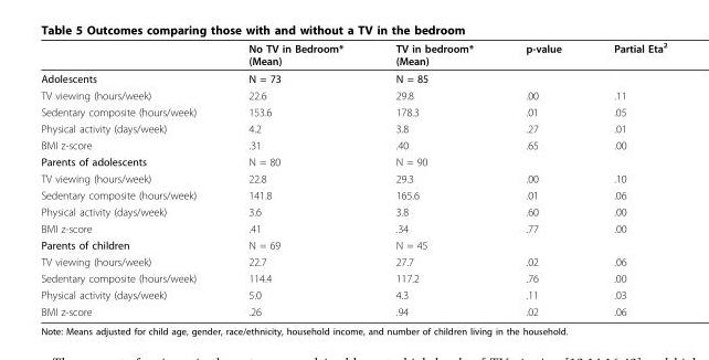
<table><thead><tr><td></td><td>No TV in Bedroom* (Mean)</td><td>TV in bedroom* (Mean)</td><td>p-value</td><td>Partial Eta<sup>2</sup></td></tr></thead><tbody><tr><td>Adolescents</td><td>N = 73</td><td>N = 85</td><td></td><td></td></tr><tr><td>TV viewing (hours/week)</td><td>22.6</td><td>29.8</td><td>.00</td><td>.11</td></tr><tr><td>Sedentary composite (hours/week)</td><td>153.6</td><td>178.3</td><td>.01</td><td>.05</td></tr><tr><td>Physical activity (days/week)</td><td>4.2</td><td>3.8</td><td>.27</td><td>.01</td></tr><tr><td>BMI z-score</td><td>.31</td><td>.40</td><td>.65</td><td>.00</td></tr><tr><td>Parents of adolescents</td><td>N = 80</td><td>N = 90</td><td></td><td></td></tr><tr><td>TV viewing (hours/week)</td><td>22.8</td><td>29.3</td><td>.00</td><td>.10</td></tr><tr><td>Sedentary composite (hours/week)</td><td>141.8</td><td>165.6</td><td>.01</td><td>.06</td></tr><tr><td>Physical activity (days/week)</td><td>3.6</td><td>3.8</td><td>.60</td><td>.00</td></tr><tr><td>BMI z-score</td><td>.41</td><td>.34</td><td>.77</td><td>.00</td></tr><tr><td>Parents of children</td><td>N = 69</td><td>N = 45</td><td></td><td></td></tr><tr><td>TV viewing (hours/week)</td><td>22.7</td><td>27.7</td><td>.02</td><td>.06</td></tr><tr><td>Sedentary composite (hours/week)</td><td>114.4</td><td>117.2</td><td>.76</td><td>.00</td></tr><tr><td>Physical activity (days/week)</td><td>5.0</td><td>4.3</td><td>.11</td><td>.03</td></tr><tr><td>BMI z-score</td><td>.26</td><td>.94</td><td>.02</td><td>.06</td></tr></tbody></table>